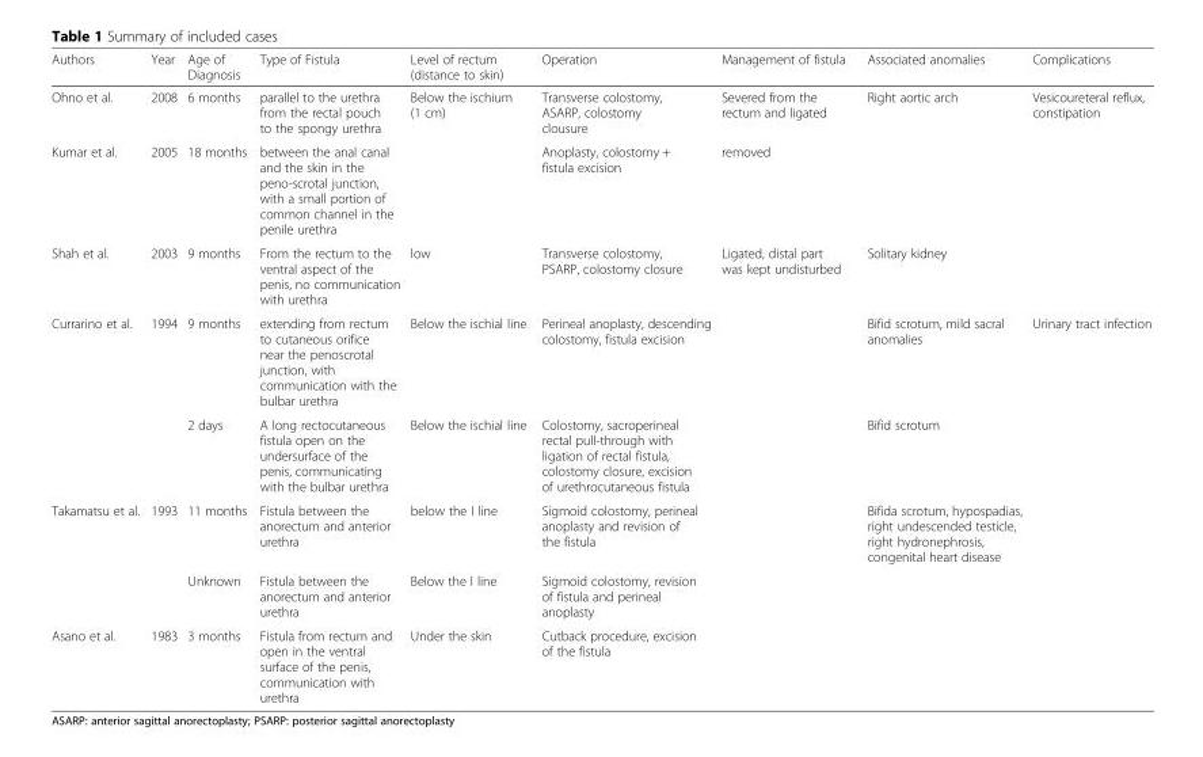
<table><thead><tr><td>Authors</td><td>Year</td><td>Age of Diagnosis</td><td>Type of Fistula</td><td>Level of rectum (distance to skin)</td><td>Operation</td><td>Management of fistula</td><td>Associated anomalies</td><td>Complications</td></tr></thead><tbody><tr><td>Ohno et al.</td><td>2008</td><td>6 months</td><td>parallel to the urethra from the rectal pouch to the spongy urethra</td><td>Below the ischium (1 cm)</td><td>Transverse colostomy, ASARP, colostomy clousure</td><td>Severed from the rectum and ligated</td><td>Right aortic arch</td><td>Vesicoureteral reflux, constipation</td></tr><tr><td>Kumar et al.</td><td>2005</td><td>18 months</td><td>between the anal canal and the skin in the peno-scrotal junction, with a small portion of common channel in the penile urethra</td><td></td><td>Anoplasty, colostomy + fistula excision</td><td>removed</td><td></td><td></td></tr><tr><td>Shah et al.</td><td>2003</td><td>9 months</td><td>From the rectum to the ventral aspect of the penis, no communication with urethra</td><td>low</td><td>Transverse colostomy, PSARP, colostomy closure</td><td>Ligated, distal part was kept undisturbed</td><td>Solitary kidney</td><td></td></tr><tr><td rowspan="2">Currarino et al.</td><td>1994</td><td>9 months</td><td>extending from rectum to cutaneous orifice near the penoscrotal junction, with communication with the bulbar urethra</td><td>Below the ischial line</td><td>Perineal anoplasty, descending colostomy, fistula excision</td><td></td><td>Bifid scrotum, mild sacral anomalies</td><td>Urinary tract infection</td></tr><tr><td></td><td>2 days</td><td>A long rectocutaneous fistula open on the undersurface of the penis, communicating with the bulbar urethra</td><td>Below the ischial line</td><td>Colostomy, sacroperineal rectal pull-through with ligation of rectal fistula, colostomy closure, excision of urethrocutaneous fistula</td><td></td><td>Bifid scrotum</td><td></td></tr><tr><td rowspan="2">Takamatsu et al.</td><td>1993</td><td>11 months</td><td>Fistula between the anorectum and anterior urethra</td><td>below the I line</td><td>Sigmoid colostomy, perineal anoplasty and revision of the fistula</td><td></td><td>Bifida scrotum, hypospadias, right undescended testicle, right hydronephrosis, congenital heart disease</td><td></td></tr><tr><td></td><td>Unknown</td><td>Fistula between the anorectum and anterior urethra</td><td>Below the I line</td><td>Sigmoid colostomy, revision of fistula and perineal anoplasty</td><td></td><td></td><td></td></tr><tr><td>Asano et al.</td><td>1983</td><td>3 months</td><td>Fistula from rectum and open in the ventral surface of the penis, communication with urethra</td><td>Under the skin</td><td>Cutback procedure, excision of the fistula</td><td></td><td></td><td></td></tr></tbody></table>